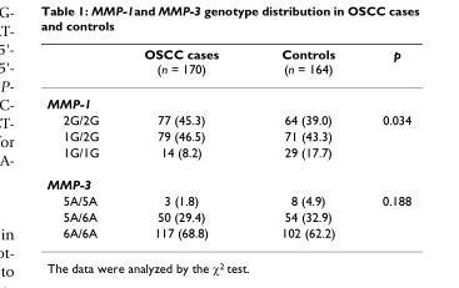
<table><thead><tr><td></td><td>OSCC cases (n = 170)</td><td>Controls (n = 164)</td><td>p</td></tr></thead><tbody><tr><td colspan="4">MMP-1</td></tr><tr><td>2G/2G</td><td>77 (45.3)</td><td>64 (39.0)</td><td>0.034</td></tr><tr><td>1G/2G</td><td>79 (46.5)</td><td>71 (43.3)</td><td></td></tr><tr><td>1G/1G</td><td>14 (8.2)</td><td>29 (17.7)</td><td></td></tr><tr><td colspan="4">MMP-3</td></tr><tr><td>5A/5A</td><td>3 (1.8)</td><td>8 (4.9)</td><td>0.188</td></tr><tr><td>5A/6A</td><td>50 (29.4)</td><td>54 (32.9)</td><td></td></tr><tr><td>6A/6A</td><td>117 (68.8)</td><td>102 (62.2)</td><td></td></tr></tbody></table>